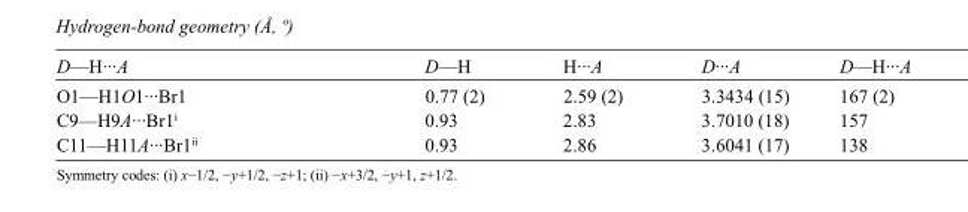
<table><tbody><tr><td>D—H···A</td><td>D—H</td><td>H···A</td><td>D···A</td><td>D—H···A</td></tr><tr><td>O1—H1O1···Br1</td><td>0.77 (2)</td><td>2.59 (2)</td><td>3.3434 (15)</td><td>167 (2)</td></tr><tr><td>C9—H9A···Br1<sup>i</sup></td><td>0.93</td><td>2.83</td><td>3.7010 (18)</td><td>157</td></tr><tr><td>C11—H11A···Br1<sup>ii</sup></td><td>0.93</td><td>2.86</td><td>3.6041 (17)</td><td>138</td></tr></tbody></table>